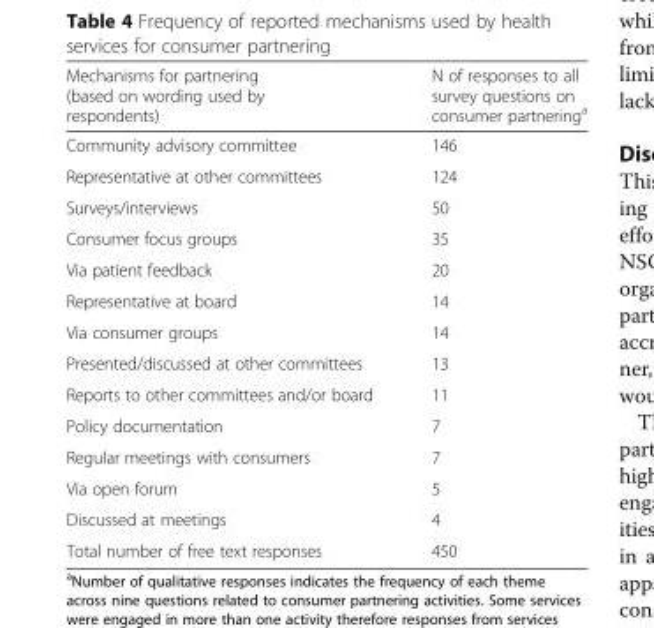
<table><thead><tr><td>Mechanisms for partnering (based on wording used by respondents)</td><td>N of responses to all survey questions on consumer partnering<sup>a</sup></td></tr></thead><tbody><tr><td>Community advisory committee</td><td>146</td></tr><tr><td>Representative at other committees</td><td>124</td></tr><tr><td>Surveys/interviews</td><td>50</td></tr><tr><td>Consumer focus groups</td><td>35</td></tr><tr><td>Via patient feedback</td><td>20</td></tr><tr><td>Representative at board</td><td>14</td></tr><tr><td>Via consumer groups</td><td>14</td></tr><tr><td>Presented/discussed at other committees</td><td>13</td></tr><tr><td>Reports to other committees and/or board</td><td>11</td></tr><tr><td>Policy documentation</td><td>7</td></tr><tr><td>Regular meetings with consumers</td><td>7</td></tr><tr><td>Via open forum</td><td>5</td></tr><tr><td>Discussed at meetings</td><td>4</td></tr><tr><td>Total number of free text responses</td><td>450</td></tr></tbody></table>